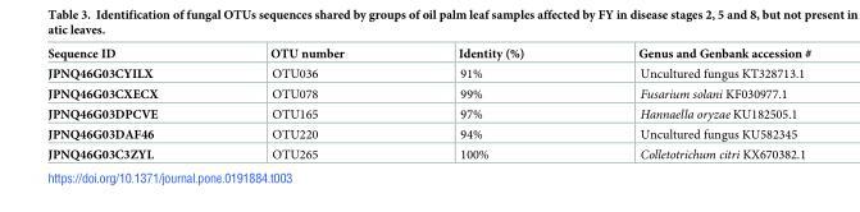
<table><thead><tr><td>Sequence ID</td><td>OTU number</td><td>Identity (%)</td><td>Genus and Genbank accession #</td></tr></thead><tbody><tr><td>JPNQ46G03CYILX</td><td>OTU036</td><td>91%</td><td>Uncultured fungus KT328713.1</td></tr><tr><td>JPNQ46G03CXECX</td><td>OTU078</td><td>99%</td><td>Fusarium solani KF030977.1</td></tr><tr><td>JPNQ46G03DPCVE</td><td>OTU165</td><td>97%</td><td>Hannaella oryzae KU182505.1</td></tr><tr><td>JPNQ46G03DAF46</td><td>OTU220</td><td>94%</td><td>Uncultured fungus KU582345</td></tr><tr><td>JPNQ46G03C3ZYL</td><td>OTU265</td><td>100%</td><td>Colletotrichum citri KX670382.1</td></tr></tbody></table>